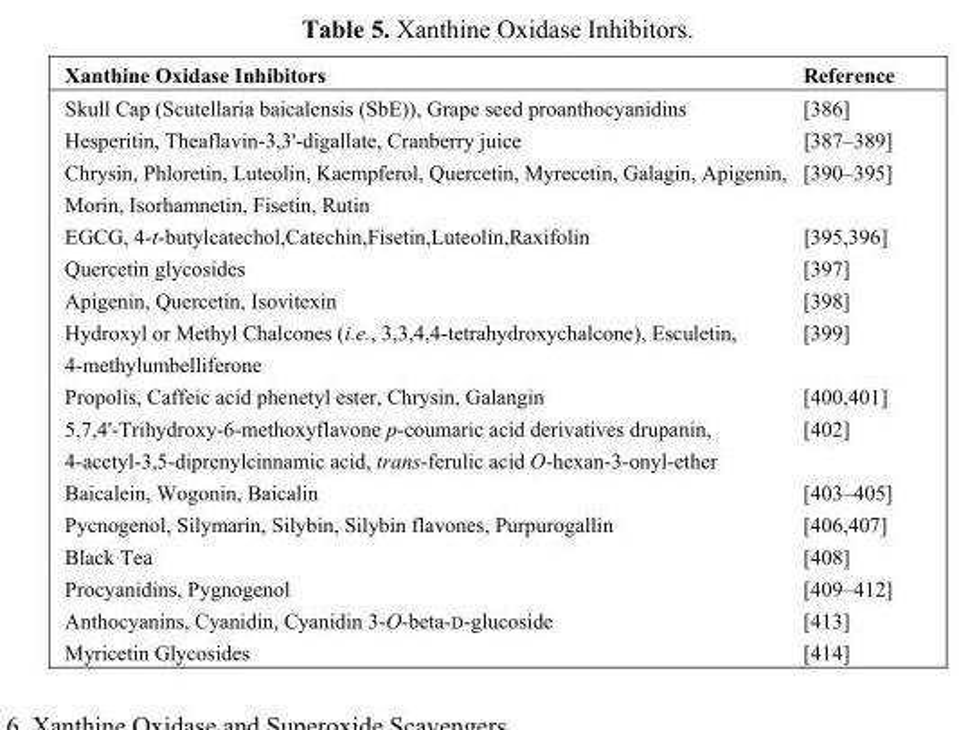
<table><thead><tr><td>Xanthine Oxidase Inhibitors</td><td>Reference</td></tr></thead><tbody><tr><td>Skull Cap (Scutellaria baicalensis (SbE)), Grape seed proanthocyanidins</td><td>[386]</td></tr><tr><td>Hesperitin, Theaflavin-3,3&#x27;-digallate, Cranberry juice</td><td>[387–389]</td></tr><tr><td>Chrysin, Phloretin, Luteolin, Kaempferol, Quercetin, Myrecetin, Galagin, Apigenin, Morin, Isorhamnetin, Fisetin, Rutin</td><td>[390–395]</td></tr><tr><td>EGCG, 4-t-butylcatechol,Catechin,Fisetin,Luteolin,Raxifolin</td><td>[395,396]</td></tr><tr><td>Quercetin glycosides</td><td>[397]</td></tr><tr><td>Apigenin, Quercetin, Isovitexin</td><td>[398]</td></tr><tr><td>Hydroxyl or Methyl Chalcones (i.e., 3,3,4,4-tetrahydroxychalcone), Esculetin, 4-methylumbelliferone</td><td>[399]</td></tr><tr><td>Propolis, Caffeic acid phenetyl ester, Chrysin, Galangin</td><td>[400,401]</td></tr><tr><td>5,7,4&#x27;-Trihydroxy-6-methoxyflavone p-coumaric acid derivatives drupanin, 4-acetyl-3,5-diprenylcinnamic acid, trans-ferulic acid O-hexan-3-onyl-ether</td><td>[402]</td></tr><tr><td>Baicalein, Wogonin, Baicalin</td><td>[403–405]</td></tr><tr><td>Pycnogenol, Silymarin, Silybin, Silybin flavones, Purpurogallin</td><td>[406,407]</td></tr><tr><td>Black Tea</td><td>[408]</td></tr><tr><td>Procyanidins, Pygnogenol</td><td>[409–412]</td></tr><tr><td>Anthocyanins, Cyanidin, Cyanidin 3-O-beta-D-glucoside</td><td>[413]</td></tr><tr><td>Myricetin Glycosides</td><td>[414]</td></tr></tbody></table>